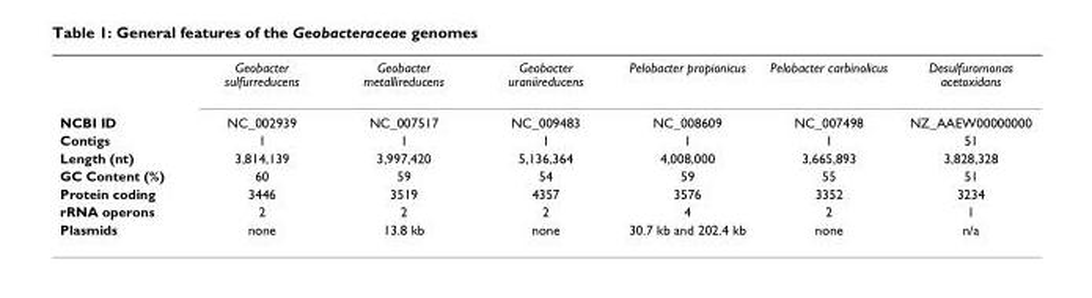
<table><thead><tr><td></td><td>Geobacter sulfurreducens</td><td>Geobacter metallireducens</td><td>Geobacter uraniireducens</td><td>Pelobacter propionicus</td><td>Pelobacter carbinolicus</td><td>Desulfuromonas acetoxidans</td></tr></thead><tbody><tr><td>NCBI ID</td><td>NC_002939</td><td>NC_007517</td><td>NC_009483</td><td>NC_008609</td><td>NC_007498</td><td>NZ_AAEW00000000</td></tr><tr><td>Contigs</td><td>1</td><td>1</td><td>1</td><td>1</td><td>1</td><td>51</td></tr><tr><td>Length (nt)</td><td>3,814,139</td><td>3,997,420</td><td>5,136,364</td><td>4,008,000</td><td>3,665,893</td><td>3,828,328</td></tr><tr><td>GC Content (%)</td><td>60</td><td>59</td><td>54</td><td>59</td><td>55</td><td>51</td></tr><tr><td>Protein coding</td><td>3446</td><td>3519</td><td>4357</td><td>3576</td><td>3352</td><td>3234</td></tr><tr><td>rRNA operons</td><td>2</td><td>2</td><td>2</td><td>4</td><td>2</td><td>1</td></tr><tr><td>Plasmids</td><td>none</td><td>13.8 kb</td><td>none</td><td>30.7 kb and 202.4 kb</td><td>none</td><td>n/a</td></tr></tbody></table>